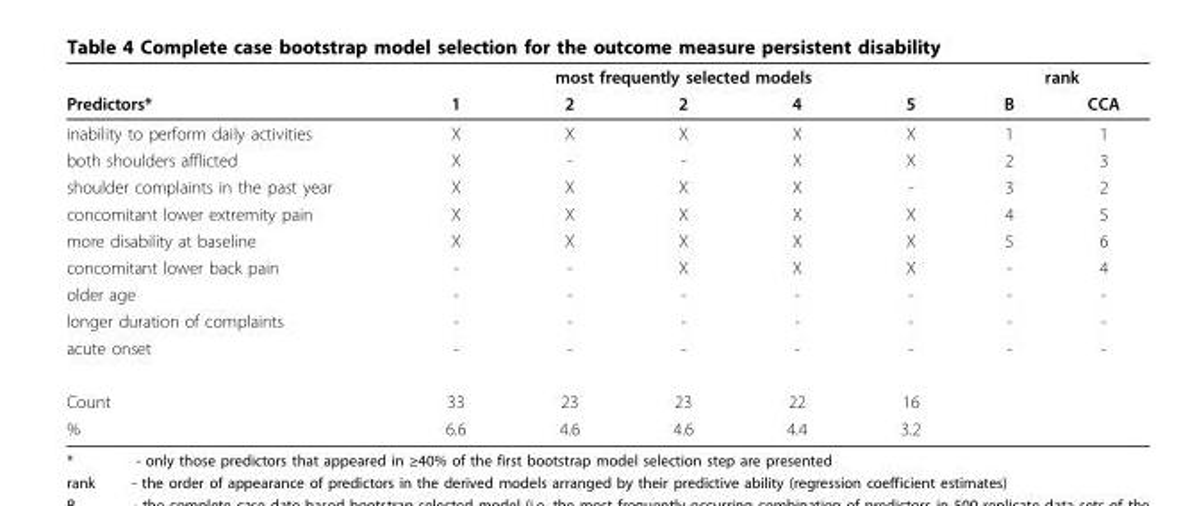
<table><thead><tr><td rowspan="2">Predictors*</td><td colspan="5">most frequently selected models</td><td colspan="2">rank</td></tr><tr><td>1</td><td>2</td><td>2</td><td>4</td><td>5</td><td>B</td><td>CCA</td></tr></thead><tbody><tr><td>inability to perform daily activities</td><td>X</td><td>X</td><td>X</td><td>X</td><td>X</td><td>1</td><td>1</td></tr><tr><td>both shoulders afflicted</td><td>X</td><td>-</td><td>-</td><td>X</td><td>X</td><td>2</td><td>3</td></tr><tr><td>shoulder complaints in the past year</td><td>X</td><td>X</td><td>X</td><td>X</td><td>-</td><td>3</td><td>2</td></tr><tr><td>concomitant lower extremity pain</td><td>X</td><td>X</td><td>X</td><td>X</td><td>X</td><td>4</td><td>5</td></tr><tr><td>more disability at baseline</td><td>X</td><td>X</td><td>X</td><td>X</td><td>X</td><td>5</td><td>6</td></tr><tr><td>concomitant lower back pain</td><td>-</td><td>-</td><td>X</td><td>X</td><td>X</td><td>-</td><td>4</td></tr><tr><td>older age</td><td>-</td><td>-</td><td>-</td><td>-</td><td>-</td><td>-</td><td>-</td></tr><tr><td>longer duration of complaints</td><td>-</td><td>-</td><td>-</td><td>-</td><td>-</td><td>-</td><td>-</td></tr><tr><td>acute onset</td><td>-</td><td>-</td><td>-</td><td>-</td><td>-</td><td>-</td><td>-</td></tr><tr><td>Count</td><td>33</td><td>23</td><td>23</td><td>22</td><td>16</td><td></td><td></td></tr><tr><td>%</td><td>6.6</td><td>4.6</td><td>4.6</td><td>4.4</td><td>3.2</td><td></td><td></td></tr></tbody></table>